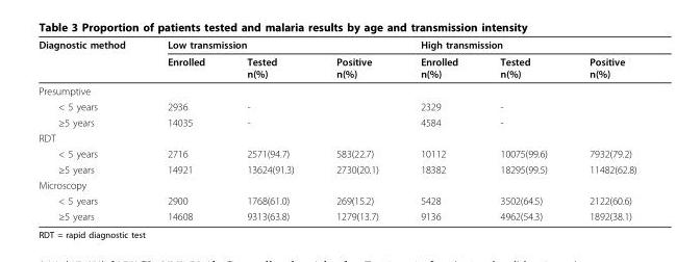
<table><thead><tr><td rowspan="2">Diagnostic method</td><td colspan="3">Low transmission</td><td colspan="3">High transmission</td></tr><tr><td>Enrolled</td><td>Tested n(%)</td><td>Positive n(%)</td><td>Enrolled n(%)</td><td>Tested n(%)</td><td>Positive n(%)</td></tr></thead><tbody><tr><td colspan="7">Presumptive</td></tr><tr><td>&lt; 5 years</td><td>2936</td><td>-</td><td></td><td>2329</td><td>-</td><td></td></tr><tr><td>≥5 years</td><td>14035</td><td>-</td><td></td><td>4584</td><td>-</td><td></td></tr><tr><td colspan="7">RDT</td></tr><tr><td>&lt; 5 years</td><td>2716</td><td>2571(94.7)</td><td>583(22.7)</td><td>10112</td><td>10075(99.6)</td><td>7932(79.2)</td></tr><tr><td>≥5 years</td><td>14921</td><td>13624(91.3)</td><td>2730(20.1)</td><td>18382</td><td>18295(99.5)</td><td>11482(62.8)</td></tr><tr><td colspan="7">Microscopy</td></tr><tr><td>&lt; 5 years</td><td>2900</td><td>1768(61.0)</td><td>269(15.2)</td><td>5428</td><td>3502(64.5)</td><td>2122(60.6)</td></tr><tr><td>≥5 years</td><td>14608</td><td>9313(63.8)</td><td>1279(13.7)</td><td>9136</td><td>4962(54.3)</td><td>1892(38.1)</td></tr></tbody></table>